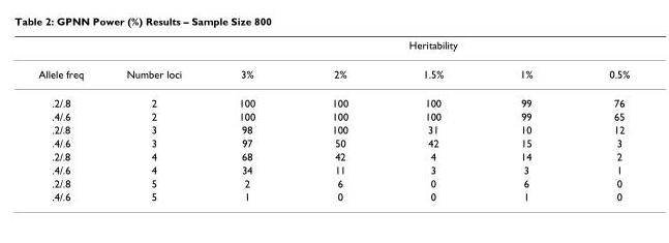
<table><thead><tr><td rowspan="2">Allele freq</td><td rowspan="2">Number loci</td><td colspan="5">Heritability</td></tr><tr><td>3%</td><td>2%</td><td>1.5%</td><td>1%</td><td>0.5%</td></tr></thead><tbody><tr><td>.2/.8</td><td>2</td><td>100</td><td>100</td><td>100</td><td>99</td><td>76</td></tr><tr><td>.4/.6</td><td>2</td><td>100</td><td>100</td><td>100</td><td>99</td><td>65</td></tr><tr><td>.2/.8</td><td>3</td><td>98</td><td>100</td><td>31</td><td>10</td><td>12</td></tr><tr><td>.4/.6</td><td>3</td><td>97</td><td>50</td><td>42</td><td>15</td><td>3</td></tr><tr><td>.2/.8</td><td>4</td><td>68</td><td>42</td><td>4</td><td>14</td><td>2</td></tr><tr><td>.4/.6</td><td>4</td><td>34</td><td>11</td><td>3</td><td>3</td><td>1</td></tr><tr><td>.2/.8</td><td>5</td><td>2</td><td>6</td><td>0</td><td>6</td><td>0</td></tr><tr><td>.4/.6</td><td>5</td><td>1</td><td>0</td><td>0</td><td>1</td><td>0</td></tr></tbody></table>